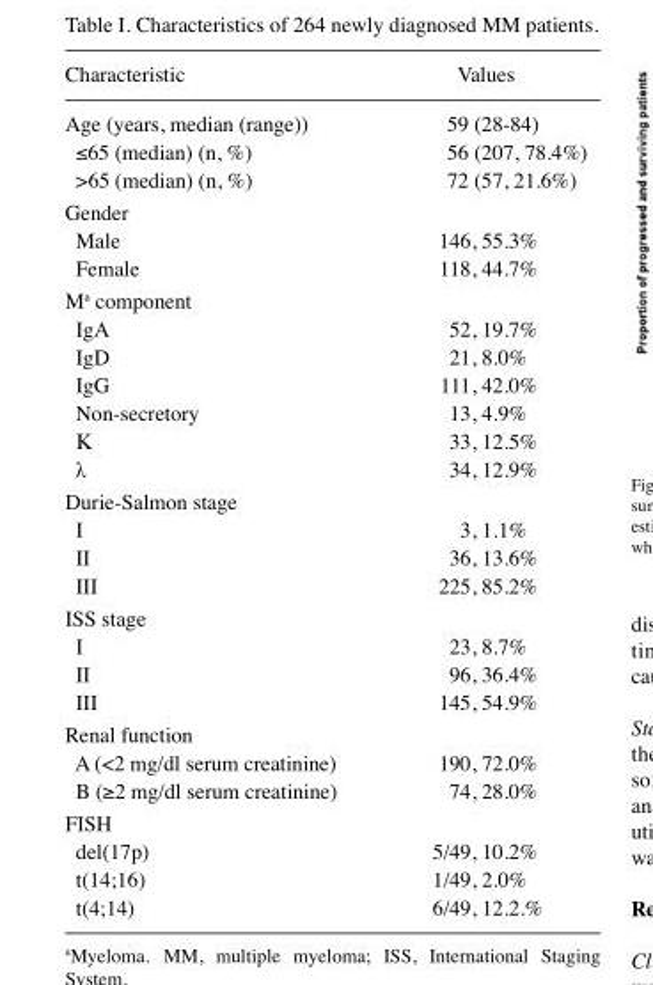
<table><thead><tr><td>Characteristic</td><td>Values</td></tr></thead><tbody><tr><td>Age (years, median (range))</td><td>59 (28-84)</td></tr><tr><td>≤65 (median) (n, %)</td><td>56 (207, 78.4%)</td></tr><tr><td>&gt;65 (median) (n, %)</td><td>72 (57, 21.6%)</td></tr><tr><td colspan="2">Gender</td></tr><tr><td>Male</td><td>146, 55.3%</td></tr><tr><td>Female</td><td>118, 44.7%</td></tr><tr><td colspan="2">M<sup>a</sup> component</td></tr><tr><td>IgA</td><td>52, 19.7%</td></tr><tr><td>IgD</td><td>21, 8.0%</td></tr><tr><td>IgG</td><td>111, 42.0%</td></tr><tr><td>Non-secretory</td><td>13, 4.9%</td></tr><tr><td>Κ</td><td>33, 12.5%</td></tr><tr><td>λ</td><td>34, 12.9%</td></tr><tr><td colspan="2">Durie-Salmon stage</td></tr><tr><td>I</td><td>3, 1.1%</td></tr><tr><td>II</td><td>36, 13.6%</td></tr><tr><td>III</td><td>225, 85.2%</td></tr><tr><td colspan="2">ISS stage</td></tr><tr><td>I</td><td>23, 8.7%</td></tr><tr><td>II</td><td>96, 36.4%</td></tr><tr><td>III</td><td>145, 54.9%</td></tr><tr><td colspan="2">Renal function</td></tr><tr><td>A (&lt;2 mg/dl serum creatinine)</td><td>190, 72.0%</td></tr><tr><td>B (≥2 mg/dl serum creatinine)</td><td>74, 28.0%</td></tr><tr><td colspan="2">FISH</td></tr><tr><td>del(17p)</td><td>5/49, 10.2%</td></tr><tr><td>t(14;16)</td><td>1/49, 2.0%</td></tr><tr><td>t(4;14)</td><td>6/49, 12.2.%</td></tr></tbody></table>